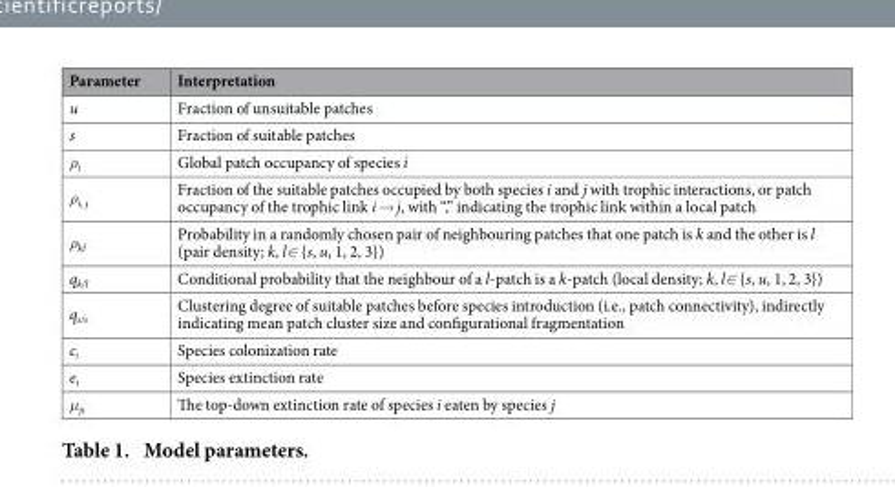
<table><thead><tr><td>Parameter</td><td>Interpretation</td></tr></thead><tbody><tr><td>u</td><td>Fraction of unsuitable patches</td></tr><tr><td>s</td><td>Fraction of suitable patches</td></tr><tr><td>ρ<sub>i</sub></td><td>Global patch occupancy of species i</td></tr><tr><td>ρ<sub>i, j</sub></td><td>Fraction of the suitable patches occupied by both species i and j with trophic interactions, or patch occupancy of the trophic link i → j, with “,” indicating the trophic link within a local patch</td></tr><tr><td>ρ<sub>kl</sub></td><td>Probability in a randomly chosen pair of neighbouring patches that one patch is k and the other is l (pair density; k, l∈ {s, u, 1, 2, 3})</td></tr><tr><td>q<sub>k/l</sub></td><td>Conditional probability that the neighbour of a l-patch is a k-patch (local density; k, l∈ {s, u, 1, 2, 3})</td></tr><tr><td>q<sub>s/s</sub></td><td>Clustering degree of suitable patches before species introduction (i.e., patch connectivity), indirectly indicating mean patch cluster size and configurational fragmentation</td></tr><tr><td>c<sub>i</sub></td><td>Species colonization rate</td></tr><tr><td>e<sub>i</sub></td><td>Species extinction rate</td></tr><tr><td>μ<sub>ji</sub></td><td>The top-down extinction rate of species i eaten by species j</td></tr></tbody></table>